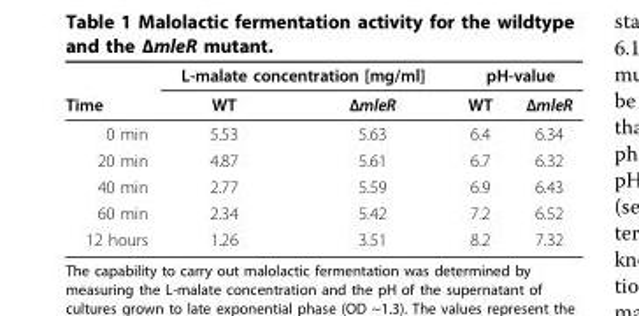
<table><thead><tr><td rowspan="2">Time</td><td colspan="2">L-malate concentration [mg/ml]</td><td colspan="2">pH-value</td></tr><tr><td>WT</td><td>ΔmleR</td><td>WT</td><td>ΔmleR</td></tr></thead><tbody><tr><td>0 min</td><td>5.53</td><td>5.63</td><td>6.4</td><td>6.34</td></tr><tr><td>20 min</td><td>4.87</td><td>5.61</td><td>6.7</td><td>6.32</td></tr><tr><td>40 min</td><td>2.77</td><td>5.59</td><td>6.9</td><td>6.43</td></tr><tr><td>60 min</td><td>2.34</td><td>5.42</td><td>7.2</td><td>6.52</td></tr><tr><td>12 hours</td><td>1.26</td><td>3.51</td><td>8.2</td><td>7.32</td></tr></tbody></table>